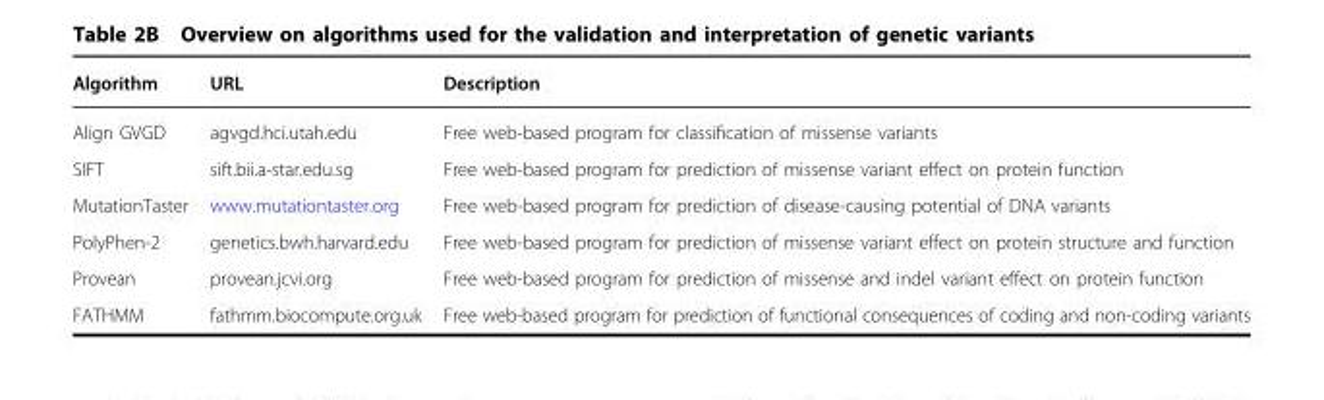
<table><thead><tr><td>Algorithm</td><td>URL</td><td>Description</td></tr></thead><tbody><tr><td>Align GVGD</td><td>agvgd.hci.utah.edu</td><td>Free web-based program for classification of missense variants</td></tr><tr><td>SIFT</td><td>sift.bii.a-star.edu.sg</td><td>Free web-based program for prediction of missense variant effect on protein function</td></tr><tr><td>MutationTaster</td><td>www.mutationtaster.org</td><td>Free web-based program for prediction of disease-causing potential of DNA variants</td></tr><tr><td>PolyPhen-2</td><td>genetics.bwh.harvard.edu</td><td>Free web-based program for prediction of missense variant effect on protein structure and function</td></tr><tr><td>Provean</td><td>provean.jcvi.org</td><td>Free web-based program for prediction of missense and indel variant effect on protein function</td></tr><tr><td>FATHMM</td><td>fathmm.biocompute.org.uk</td><td>Free web-based program for prediction of functional consequences of coding and non-coding variants</td></tr></tbody></table>